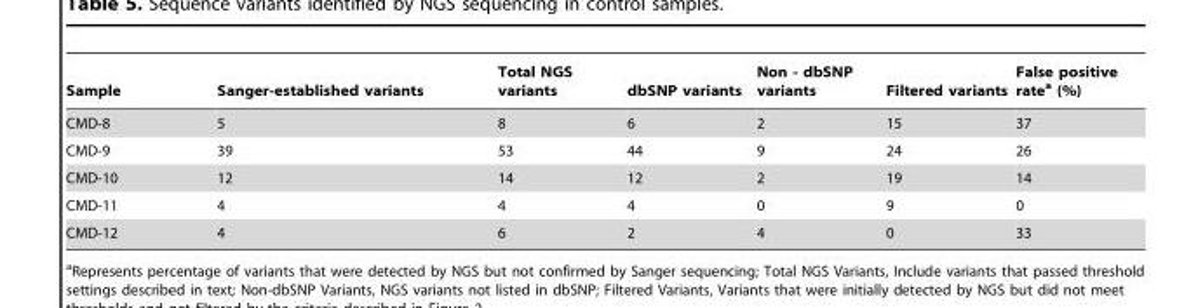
<table><thead><tr><td>Sample</td><td>Sanger-established variants</td><td>Total NGS variants</td><td>dbSNP variants</td><td>Non - dbSNP variants</td><td>Filtered variants</td><td>False positive rate<sup>a</sup> (%)</td></tr></thead><tbody><tr><td>CMD-8</td><td>5</td><td>8</td><td>6</td><td>2</td><td>15</td><td>37</td></tr><tr><td>CMD-9</td><td>39</td><td>53</td><td>44</td><td>9</td><td>24</td><td>26</td></tr><tr><td>CMD-10</td><td>12</td><td>14</td><td>12</td><td>2</td><td>19</td><td>14</td></tr><tr><td>CMD-11</td><td>4</td><td>4</td><td>4</td><td>0</td><td>9</td><td>0</td></tr><tr><td>CMD-12</td><td>4</td><td>6</td><td>2</td><td>4</td><td>0</td><td>33</td></tr></tbody></table>